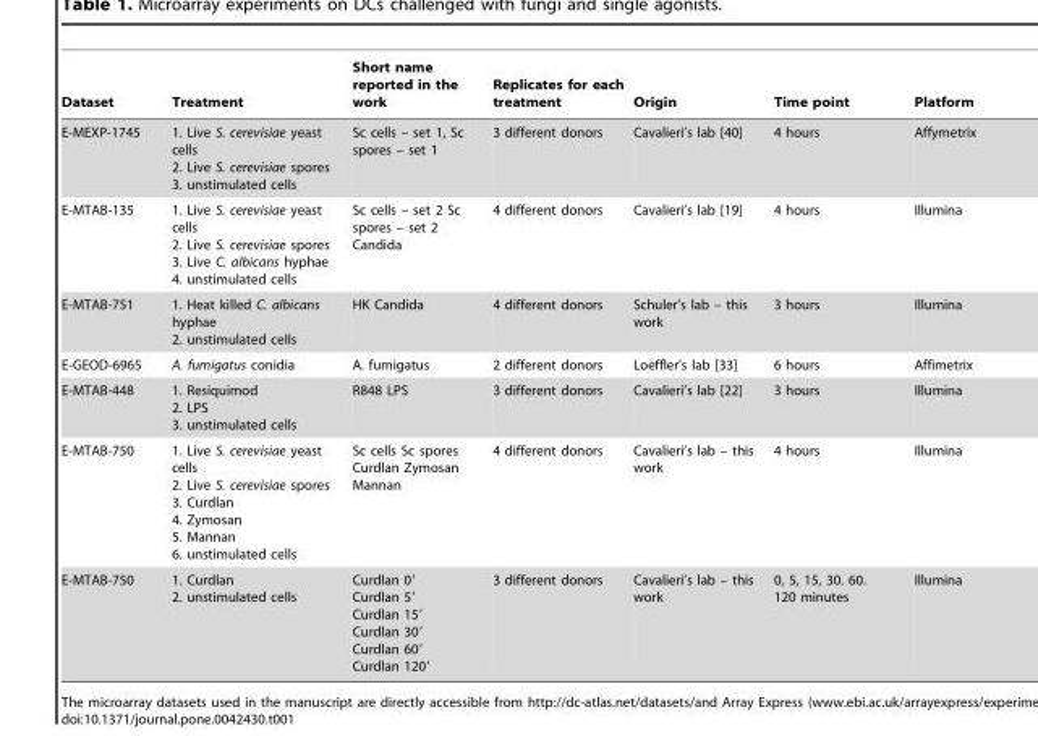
<table><thead><tr><td>Dataset</td><td>Treatment</td><td>Short name reported in the work</td><td>Replicates for each treatment</td><td>Origin</td><td>Time point</td><td>Platform</td></tr></thead><tbody><tr><td>E-MEXP-1745</td><td>1. Live S. cerevisiae yeast cells 2. Live S. cerevisiae spores 3. unstimulated cells</td><td>Sc cells – set 1, Sc spores – set 1</td><td>3 different donors</td><td>Cavalieri’s lab [40]</td><td>4 hours</td><td>Affymetrix</td></tr><tr><td>E-MTAB-135</td><td>1. Live S. cerevisiae yeast cells 2. Live S. cerevisiae spores 3. Live C. albicans hyphae 4. unstimulated cells</td><td>Sc cells – set 2 Sc spores – set 2 Candida</td><td>4 different donors</td><td>Cavalieri’s lab [19]</td><td>4 hours</td><td>Illumina</td></tr><tr><td>E-MTAB-751</td><td>1. Heat killed C. albicans hyphae 2. unstimulated cells</td><td>HK Candida</td><td>4 different donors</td><td>Schuler’s lab – this work</td><td>3 hours</td><td>Illumina</td></tr><tr><td>E-GEOD-6965</td><td>A. fumigatus conidia</td><td>A. fumigatus</td><td>2 different donors</td><td>Loeffler’s lab [33]</td><td>6 hours</td><td>Affimetrix</td></tr><tr><td>E-MTAB-448</td><td>1. Resiquimod 2. LPS 3. unstimulated cells</td><td>R848 LPS</td><td>3 different donors</td><td>Cavalieri’s lab [22]</td><td>3 hours</td><td>Illumina</td></tr><tr><td>E-MTAB-750</td><td>1. Live S. cerevisiae yeast cells 2. Live S. cerevisiae spores 3. Curdlan 4. Zymosan 5. Mannan 6. unstimulated cells</td><td>Sc cells Sc spores Curdlan Zymosan Mannan</td><td>4 different donors</td><td>Cavalieri’s lab – this work</td><td>4 hours</td><td>Illumina</td></tr><tr><td>E-MTAB-750</td><td>1. Curdlan 2. unstimulated cells</td><td>Curdlan 0′ Curdlan 5′ Curdlan 15′ Curdlan 30′ Curdlan 60′ Curdlan 120′</td><td>3 different donors</td><td>Cavalieri’s lab – this work</td><td>0, 5, 15, 30. 60. 120 minutes</td><td>Illumina</td></tr></tbody></table>